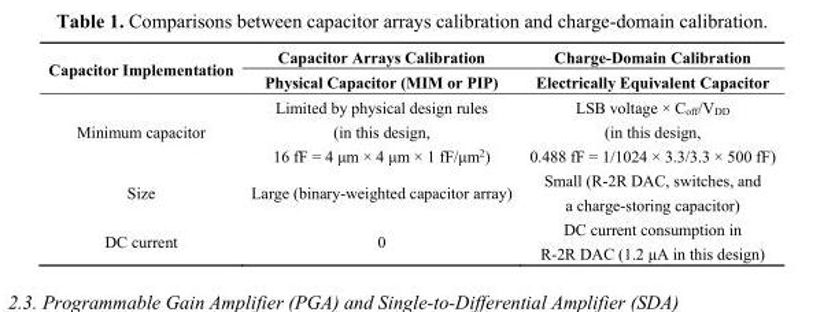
<table><thead><tr><td rowspan="2">Capacitor Implementation</td><td rowspan="2">Capacitor Arrays Calibration Physical Capacitor (MIM or PIP)</td><td rowspan="2">Charge-Domain Calibration Electrically Equivalent Capacitor</td></tr><tr></tr></thead><tbody><tr><td>Minimum capacitor</td><td>Limited by physical design rules (in this design, 16 fF = 4 μm × 4 μm × 1 fF/μm<sup>2</sup>)</td><td>LSB voltage × C<sub>off</sub>/V<sub>DD</sub> (in this design, 0.488 fF = 1/1024 × 3.3/3.3 × 500 fF)</td></tr><tr><td>Size</td><td>Large (binary-weighted capacitor array)</td><td>Small (R-2R DAC, switches, and a charge-storing capacitor)</td></tr><tr><td>DC current</td><td>0</td><td>DC current consumption in R-2R DAC (1.2 μA in this design)</td></tr></tbody></table>